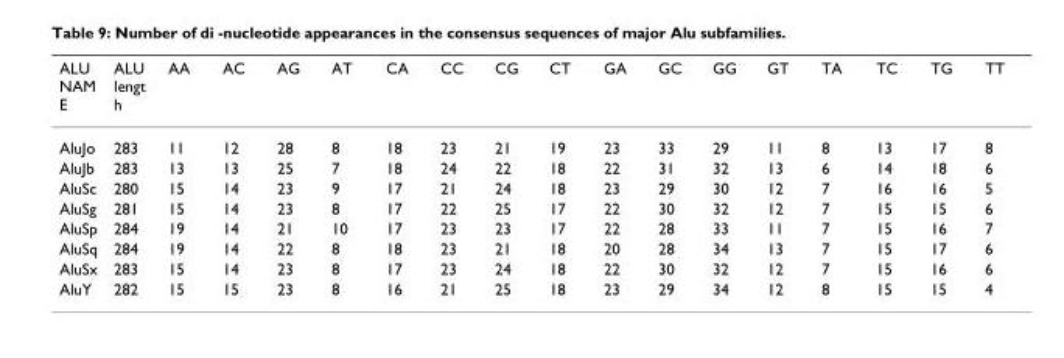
<table><thead><tr><td>ALU NAM E</td><td>ALU lengt h</td><td>AA</td><td>AC</td><td>AG</td><td>AT</td><td>CA</td><td>CC</td><td>CG</td><td>CT</td><td>GA</td><td>GC</td><td>GG</td><td>GT</td><td>TA</td><td>TC</td><td>TG</td><td>TT</td></tr></thead><tbody><tr><td>AluJo</td><td>283</td><td>11</td><td>12</td><td>28</td><td>8</td><td>18</td><td>23</td><td>21</td><td>19</td><td>23</td><td>33</td><td>29</td><td>11</td><td>8</td><td>13</td><td>17</td><td>8</td></tr><tr><td>AluJb</td><td>283</td><td>13</td><td>13</td><td>25</td><td>7</td><td>18</td><td>24</td><td>22</td><td>18</td><td>22</td><td>31</td><td>32</td><td>13</td><td>6</td><td>14</td><td>18</td><td>6</td></tr><tr><td>AluSc</td><td>280</td><td>15</td><td>14</td><td>23</td><td>9</td><td>17</td><td>21</td><td>24</td><td>18</td><td>23</td><td>29</td><td>30</td><td>12</td><td>7</td><td>16</td><td>16</td><td>5</td></tr><tr><td>AluSg</td><td>281</td><td>15</td><td>14</td><td>23</td><td>8</td><td>17</td><td>22</td><td>25</td><td>17</td><td>22</td><td>30</td><td>32</td><td>12</td><td>7</td><td>15</td><td>15</td><td>6</td></tr><tr><td>AluSp</td><td>284</td><td>19</td><td>14</td><td>21</td><td>10</td><td>17</td><td>23</td><td>23</td><td>17</td><td>22</td><td>28</td><td>33</td><td>11</td><td>7</td><td>15</td><td>16</td><td>7</td></tr><tr><td>AluSq</td><td>284</td><td>19</td><td>14</td><td>22</td><td>8</td><td>18</td><td>23</td><td>21</td><td>18</td><td>20</td><td>28</td><td>34</td><td>13</td><td>7</td><td>15</td><td>17</td><td>6</td></tr><tr><td>AluSx</td><td>283</td><td>15</td><td>14</td><td>23</td><td>8</td><td>17</td><td>23</td><td>24</td><td>18</td><td>22</td><td>30</td><td>32</td><td>12</td><td>7</td><td>15</td><td>16</td><td>6</td></tr><tr><td>AluY</td><td>282</td><td>15</td><td>15</td><td>23</td><td>8</td><td>16</td><td>21</td><td>25</td><td>18</td><td>23</td><td>29</td><td>34</td><td>12</td><td>8</td><td>15</td><td>15</td><td>4</td></tr></tbody></table>